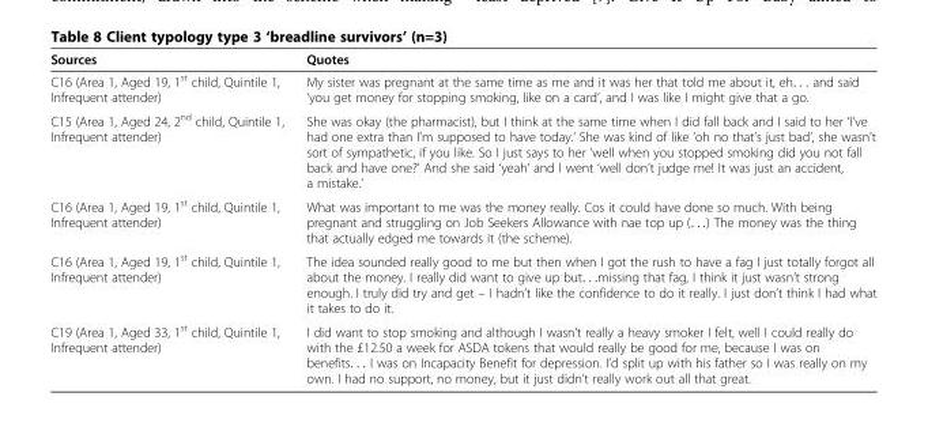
<table><thead><tr><td>Sources</td><td>Quotes</td></tr></thead><tbody><tr><td>C16 (Area 1, Aged 19, 1<sup>st</sup> child, Quintile 1, Infrequent attender)</td><td>My sister was pregnant at the same time as me and it was her that told me about it, eh. . . and said ‘you get money for stopping smoking, like on a card’, and I was like I might give that a go.</td></tr><tr><td>C15 (Area 1, Aged 24, 2<sup>nd</sup> child, Quintile 1, Infrequent attender)</td><td>She was okay (the pharmacist), but I think at the same time when I did fall back and I said to her ‘I’ve had one extra than I’m supposed to have today.’ She was kind of like ‘oh no that’s just bad’, she wasn’t sort of sympathetic, if you like. So I just says to her ‘well when you stopped smoking did you not fall back and have one?’ And she said ‘yeah’ and I went ‘well don’t judge me! It was just an accident, a mistake.’</td></tr><tr><td>C16 (Area 1, Aged 19, 1<sup>st</sup> child, Quintile 1, Infrequent attender)</td><td>What was important to me was the money really. Cos it could have done so much. With being pregnant and struggling on Job Seekers Allowance with nae top up (. . .) The money was the thing that actually edged me towards it (the scheme).</td></tr><tr><td>C16 (Area 1, Aged 19, 1<sup>st</sup> child, Quintile 1, Infrequent attender)</td><td>The idea sounded really good to me but then when I got the rush to have a fag I just totally forgot all about the money. I really did want to give up but. . .missing that fag, I think it just wasn’t strong enough. I truly did try and get – I hadn’t like the confidence to do it really. I just don’t think I had what it takes to do it.</td></tr><tr><td>C19 (Area 1, Aged 33, 1<sup>st</sup> child, Quintile 1, Infrequent attender)</td><td>I did want to stop smoking and although I wasn’t really a heavy smoker I felt, well I could really do with the £12.50 a week for ASDA tokens that would really be good for me, because I was on benefits. . . I was on Incapacity Benefit for depression. I’d split up with his father so I was really on my own. I had no support, no money, but it just didn’t really work out all that great.</td></tr></tbody></table>